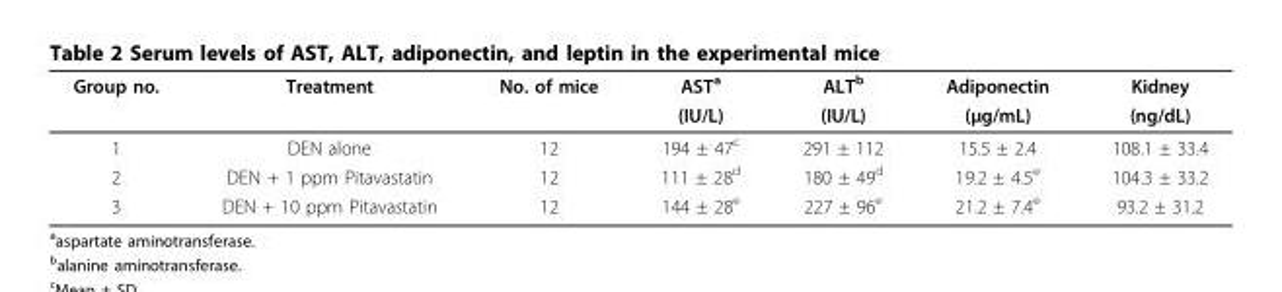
<table><thead><tr><td rowspan="2">Group no.</td><td rowspan="2">Treatment</td><td rowspan="2">No. of mice</td><td rowspan="2">AST<sup>a</sup> (IU/L)</td><td rowspan="2">ALT<sup>b</sup> (IU/L)</td><td rowspan="2">Adiponectin (μg/mL)</td><td rowspan="2">Kidney (ng/dL)</td></tr><tr></tr></thead><tbody><tr><td>1</td><td>DEN alone</td><td>12</td><td>194 ± 47<sup>c</sup></td><td>291 ± 112</td><td>15.5 ± 2.4</td><td>108.1 ± 33.4</td></tr><tr><td>2</td><td>DEN + 1 ppm Pitavastatin</td><td>12</td><td>111 ± 28<sup>d</sup></td><td>180 ± 49<sup>d</sup></td><td>19.2 ± 4.5<sup>e</sup></td><td>104.3 ± 33.2</td></tr><tr><td>3</td><td>DEN + 10 ppm Pitavastatin</td><td>12</td><td>144 ± 28<sup>e</sup></td><td>227 ± 96<sup>e</sup></td><td>21.2 ± 7.4<sup>e</sup></td><td>93.2 ± 31.2</td></tr></tbody></table>